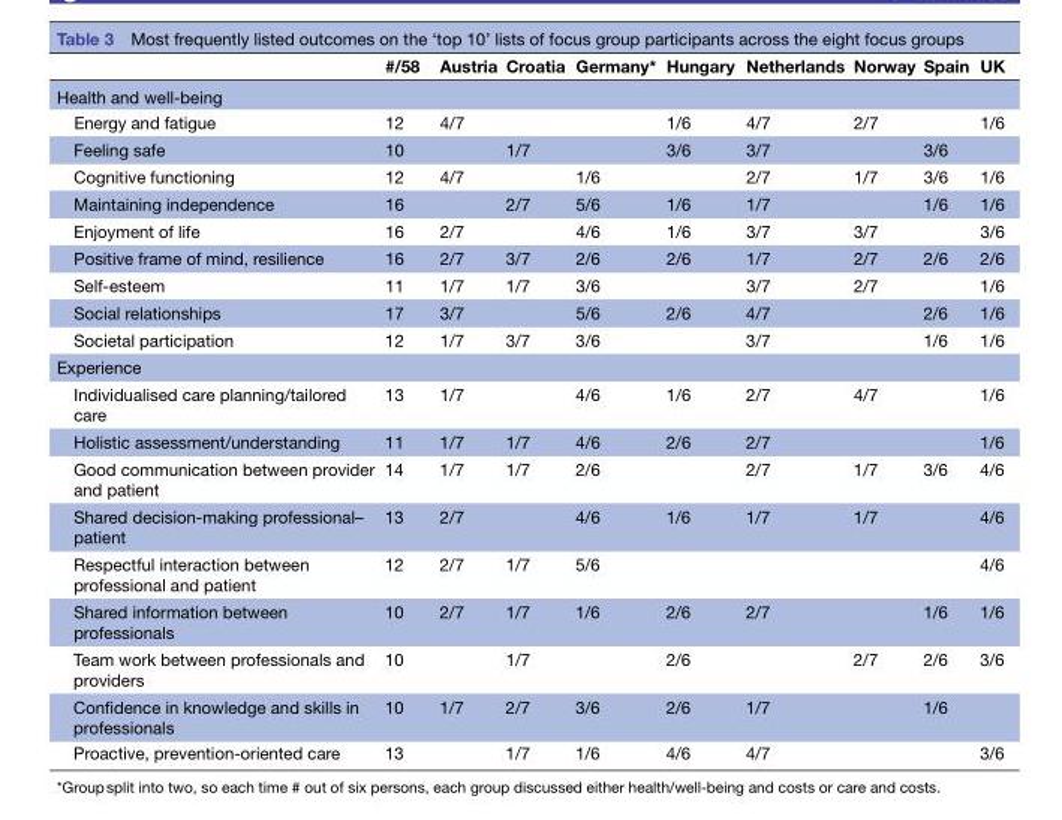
<table><thead><tr><td></td><td>#/58</td><td>Austria</td><td>Croatia</td><td>Germany*</td><td>Hungary</td><td>Netherlands</td><td>Norway</td><td>Spain</td><td>UK</td></tr></thead><tbody><tr><td colspan="10">Health and well-being</td></tr><tr><td>Energy and fatigue</td><td>12</td><td>4/7</td><td></td><td></td><td>1/6</td><td>4/7</td><td>2/7</td><td></td><td>1/6</td></tr><tr><td>Feeling safe</td><td>10</td><td></td><td>1/7</td><td></td><td>3/6</td><td>3/7</td><td></td><td>3/6</td><td></td></tr><tr><td>Cognitive functioning</td><td>12</td><td>4/7</td><td></td><td>1/6</td><td></td><td>2/7</td><td>1/7</td><td>3/6</td><td>1/6</td></tr><tr><td>Maintaining independence</td><td>16</td><td></td><td>2/7</td><td>5/6</td><td>1/6</td><td>1/7</td><td></td><td>1/6</td><td>1/6</td></tr><tr><td>Enjoyment of life</td><td>16</td><td>2/7</td><td></td><td>4/6</td><td>1/6</td><td>3/7</td><td>3/7</td><td></td><td>3/6</td></tr><tr><td>Positive frame of mind, resilience</td><td>16</td><td>2/7</td><td>3/7</td><td>2/6</td><td>2/6</td><td>1/7</td><td>2/7</td><td>2/6</td><td>2/6</td></tr><tr><td>Self-esteem</td><td>11</td><td>1/7</td><td>1/7</td><td>3/6</td><td></td><td>3/7</td><td>2/7</td><td></td><td>1/6</td></tr><tr><td>Social relationships</td><td>17</td><td>3/7</td><td></td><td>5/6</td><td>2/6</td><td>4/7</td><td></td><td>2/6</td><td>1/6</td></tr><tr><td>Societal participation</td><td>12</td><td>1/7</td><td>3/7</td><td>3/6</td><td></td><td>3/7</td><td></td><td>1/6</td><td>1/6</td></tr><tr><td colspan="10">Experience</td></tr><tr><td>Individualised care planning/tailored care</td><td>13</td><td>1/7</td><td></td><td>4/6</td><td>1/6</td><td>2/7</td><td>4/7</td><td></td><td>1/6</td></tr><tr><td>Holistic assessment/understanding</td><td>11</td><td>1/7</td><td>1/7</td><td>4/6</td><td>2/6</td><td>2/7</td><td></td><td></td><td>1/6</td></tr><tr><td>Good communication between provider and patient</td><td>14</td><td>1/7</td><td>1/7</td><td>2/6</td><td></td><td>2/7</td><td>1/7</td><td>3/6</td><td>4/6</td></tr><tr><td>Shared decision-making professional– patient</td><td>13</td><td>2/7</td><td></td><td>4/6</td><td>1/6</td><td>1/7</td><td>1/7</td><td></td><td>4/6</td></tr><tr><td>Respectful interaction between professional and patient</td><td>12</td><td>2/7</td><td>1/7</td><td>5/6</td><td></td><td></td><td></td><td></td><td>4/6</td></tr><tr><td>Shared information between professionals</td><td>10</td><td>2/7</td><td>1/7</td><td>1/6</td><td>2/6</td><td>2/7</td><td></td><td>1/6</td><td>1/6</td></tr><tr><td>Team work between professionals and providers</td><td>10</td><td></td><td>1/7</td><td></td><td>2/6</td><td></td><td>2/7</td><td>2/6</td><td>3/6</td></tr><tr><td>Confidence in knowledge and skills in professionals</td><td>10</td><td>1/7</td><td>2/7</td><td>3/6</td><td>2/6</td><td>1/7</td><td></td><td>1/6</td><td></td></tr><tr><td>Proactive, prevention-oriented care</td><td>13</td><td></td><td>1/7</td><td>1/6</td><td>4/6</td><td>4/7</td><td></td><td></td><td>3/6</td></tr></tbody></table>